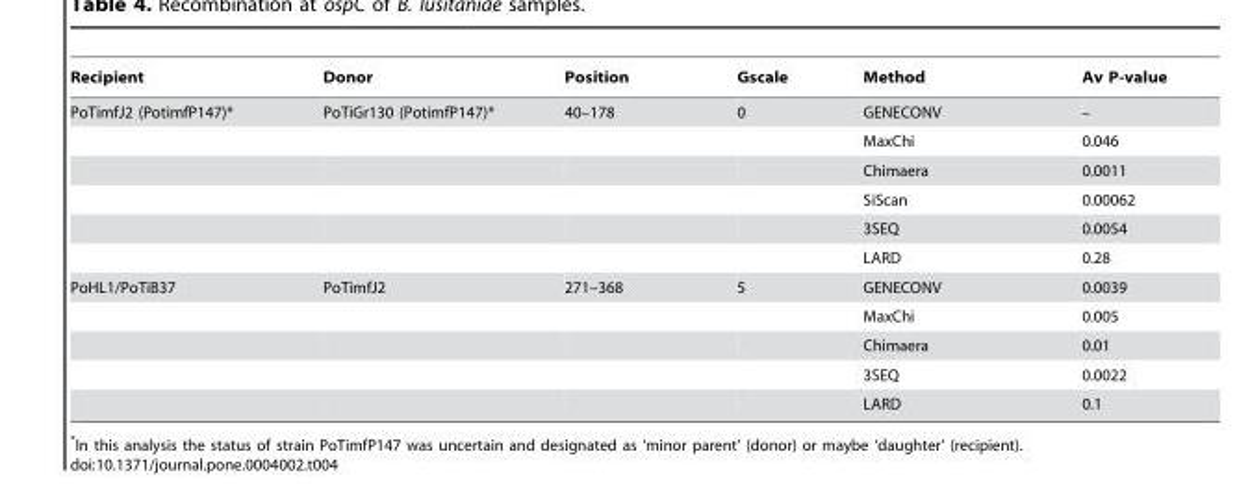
<table><thead><tr><td>Recipient</td><td>Donor</td><td>Position</td><td>Gscale</td><td>Method</td><td>Av P-value</td></tr></thead><tbody><tr><td rowspan="6">PoTimfJ2 (PotimfP147)*</td><td>PoTiGr130 (PotimfP147)*</td><td>40–178</td><td>0</td><td>GENECONV</td><td>–</td></tr><tr><td></td><td></td><td></td><td>MaxChi</td><td>0.046</td></tr><tr><td></td><td></td><td></td><td>Chimaera</td><td>0.0011</td></tr><tr><td></td><td></td><td></td><td>SiScan</td><td>0.00062</td></tr><tr><td></td><td></td><td></td><td>3SEQ</td><td>0.0054</td></tr><tr><td></td><td></td><td></td><td>LARD</td><td>0.28</td></tr><tr><td rowspan="5">PoHL1/PoTiB37</td><td>PoTimfJ2</td><td>271–368</td><td>5</td><td>GENECONV</td><td>0.0039</td></tr><tr><td></td><td></td><td></td><td>MaxChi</td><td>0.005</td></tr><tr><td></td><td></td><td></td><td>Chimaera</td><td>0.01</td></tr><tr><td></td><td></td><td></td><td>3SEQ</td><td>0.0022</td></tr><tr><td></td><td></td><td></td><td>LARD</td><td>0.1</td></tr></tbody></table>